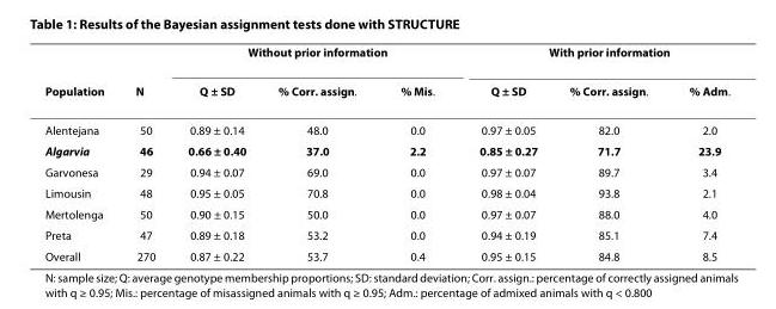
<table><thead><tr><td rowspan="2">Population</td><td rowspan="2">N</td><td colspan="3">Without prior information</td><td colspan="3">With prior information</td></tr><tr><td>Q ± SD</td><td>% Corr. assign.</td><td>% Mis.</td><td>Q ± SD</td><td>% Corr. assign.</td><td>% Adm.</td></tr></thead><tbody><tr><td>Alentejana</td><td>50</td><td>0.89 ± 0.14</td><td>48.0</td><td>0.0</td><td>0.97 ± 0.05</td><td>82.0</td><td>2.0</td></tr><tr><td>Algarvia</td><td>46</td><td>0.66 ± 0.40</td><td>37.0</td><td>2.2</td><td>0.85 ± 0.27</td><td>71.7</td><td>23.9</td></tr><tr><td>Garvonesa</td><td>29</td><td>0.94 ± 0.07</td><td>69.0</td><td>0.0</td><td>0.97 ± 0.07</td><td>89.7</td><td>3.4</td></tr><tr><td>Limousin</td><td>48</td><td>0.95 ± 0.05</td><td>70.8</td><td>0.0</td><td>0.98 ± 0.04</td><td>93.8</td><td>2.1</td></tr><tr><td>Mertolenga</td><td>50</td><td>0.90 ± 0.15</td><td>50.0</td><td>0.0</td><td>0.97 ± 0.07</td><td>88.0</td><td>4.0</td></tr><tr><td>Preta</td><td>47</td><td>0.89 ± 0.18</td><td>53.2</td><td>0.0</td><td>0.94 ± 0.19</td><td>85.1</td><td>7.4</td></tr><tr><td>Overall</td><td>270</td><td>0.87 ± 0.22</td><td>53.7</td><td>0.4</td><td>0.95 ± 0.15</td><td>84.8</td><td>8.5</td></tr></tbody></table>